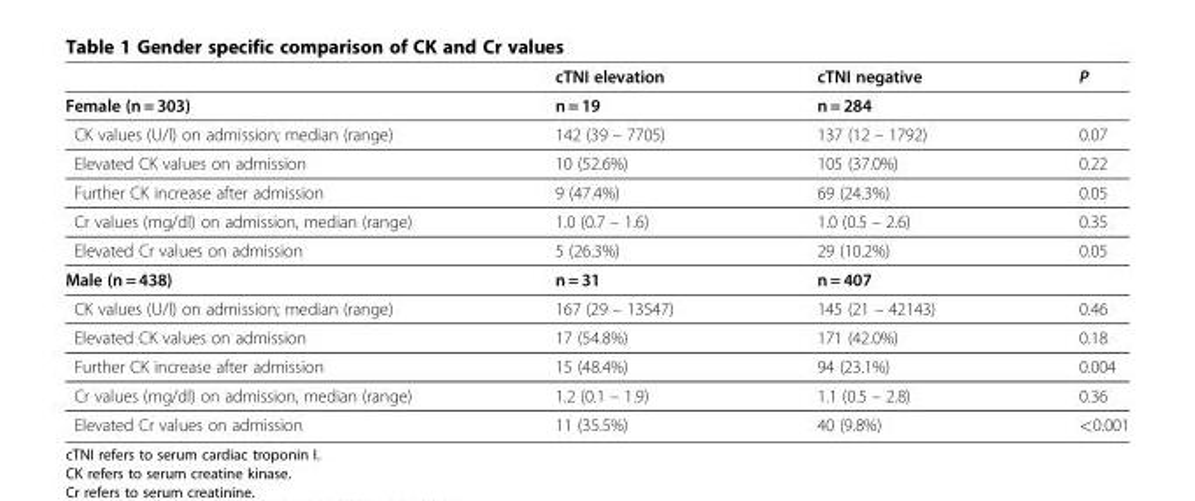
<table><thead><tr><td></td><td>cTNI elevation</td><td>cTNI negative</td><td>P</td></tr></thead><tbody><tr><td>Female (n = 303)</td><td>n = 19</td><td>n = 284</td><td></td></tr><tr><td>CK values (U/l) on admission; median (range)</td><td>142 (39 – 7705)</td><td>137 (12 – 1792)</td><td>0.07</td></tr><tr><td>Elevated CK values on admission</td><td>10 (52.6%)</td><td>105 (37.0%)</td><td>0.22</td></tr><tr><td>Further CK increase after admission</td><td>9 (47.4%)</td><td>69 (24.3%)</td><td>0.05</td></tr><tr><td>Cr values (mg/dl) on admission, median (range)</td><td>1.0 (0.7 – 1.6)</td><td>1.0 (0.5 – 2.6)</td><td>0.35</td></tr><tr><td>Elevated Cr values on admission</td><td>5 (26.3%)</td><td>29 (10.2%)</td><td>0.05</td></tr><tr><td>Male (n = 438)</td><td>n = 31</td><td>n = 407</td><td></td></tr><tr><td>CK values (U/l) on admission; median (range)</td><td>167 (29 – 13547)</td><td>145 (21 – 42143)</td><td>0.46</td></tr><tr><td>Elevated CK values on admission</td><td>17 (54.8%)</td><td>171 (42.0%)</td><td>0.18</td></tr><tr><td>Further CK increase after admission</td><td>15 (48.4%)</td><td>94 (23.1%)</td><td>0.004</td></tr><tr><td>Cr values (mg/dl) on admission, median (range)</td><td>1.2 (0.1 – 1.9)</td><td>1.1 (0.5 – 2.8)</td><td>0.36</td></tr><tr><td>Elevated Cr values on admission</td><td>11 (35.5%)</td><td>40 (9.8%)</td><td>&lt;0.001</td></tr></tbody></table>